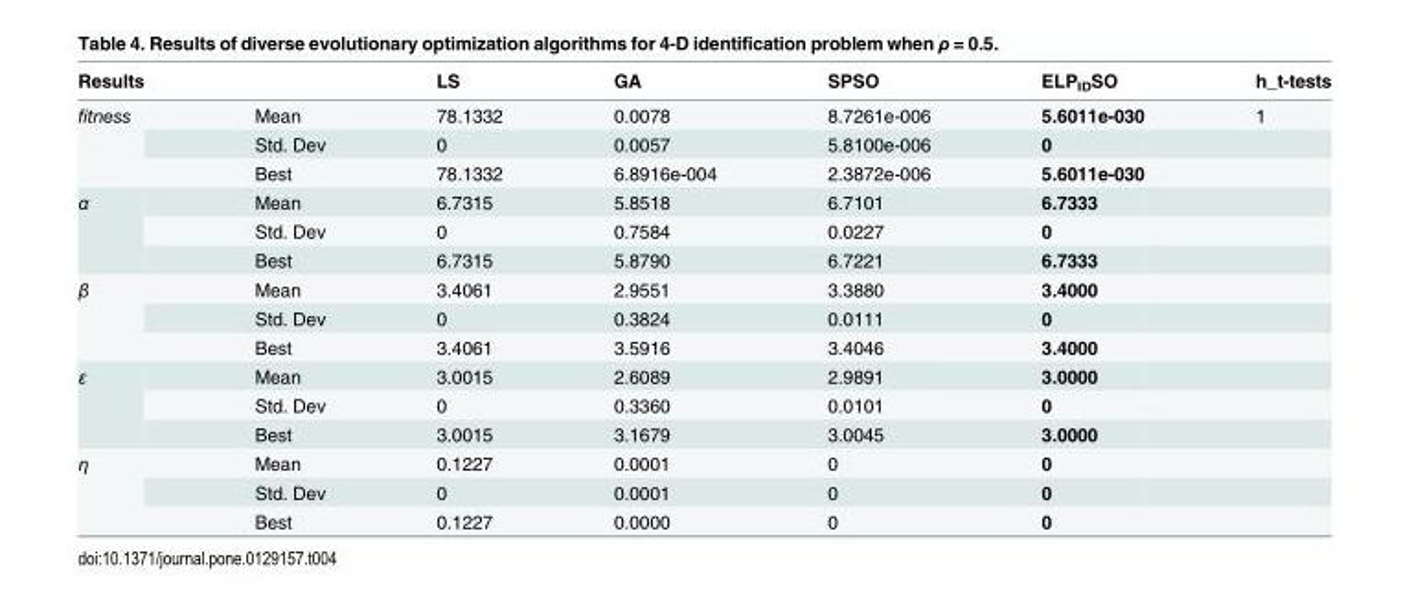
<table><thead><tr><td>Results</td><td></td><td>LS</td><td>GA</td><td>SPSO</td><td>ELP<sub>ID</sub>SO</td><td>h_t-tests</td></tr></thead><tbody><tr><td rowspan="3">fitness</td><td>Mean</td><td>78.1332</td><td>0.0078</td><td>8.7261e-006</td><td>5.6011e-030</td><td>1</td></tr><tr><td>Std. Dev</td><td>0</td><td>0.0057</td><td>5.8100e-006</td><td>0</td><td></td></tr><tr><td>Best</td><td>78.1332</td><td>6.8916e-004</td><td>2.3872e-006</td><td>5.6011e-030</td><td></td></tr><tr><td rowspan="3">α</td><td>Mean</td><td>6.7315</td><td>5.8518</td><td>6.7101</td><td>6.7333</td><td></td></tr><tr><td>Std. Dev</td><td>0</td><td>0.7584</td><td>0.0227</td><td>0</td><td></td></tr><tr><td>Best</td><td>6.7315</td><td>5.8790</td><td>6.7221</td><td>6.7333</td><td></td></tr><tr><td rowspan="3">β</td><td>Mean</td><td>3.4061</td><td>2.9551</td><td>3.3880</td><td>3.4000</td><td></td></tr><tr><td>Std. Dev</td><td>0</td><td>0.3824</td><td>0.0111</td><td>0</td><td></td></tr><tr><td>Best</td><td>3.4061</td><td>3.5916</td><td>3.4046</td><td>3.4000</td><td></td></tr><tr><td rowspan="3">ε</td><td>Mean</td><td>3.0015</td><td>2.6089</td><td>2.9891</td><td>3.0000</td><td></td></tr><tr><td>Std. Dev</td><td>0</td><td>0.3360</td><td>0.0101</td><td>0</td><td></td></tr><tr><td>Best</td><td>3.0015</td><td>3.1679</td><td>3.0045</td><td>3.0000</td><td></td></tr><tr><td rowspan="3">η</td><td>Mean</td><td>0.1227</td><td>0.0001</td><td>0</td><td>0</td><td></td></tr><tr><td>Std. Dev</td><td>0</td><td>0.0001</td><td>0</td><td>0</td><td></td></tr><tr><td>Best</td><td>0.1227</td><td>0.0000</td><td>0</td><td>0</td><td></td></tr></tbody></table>